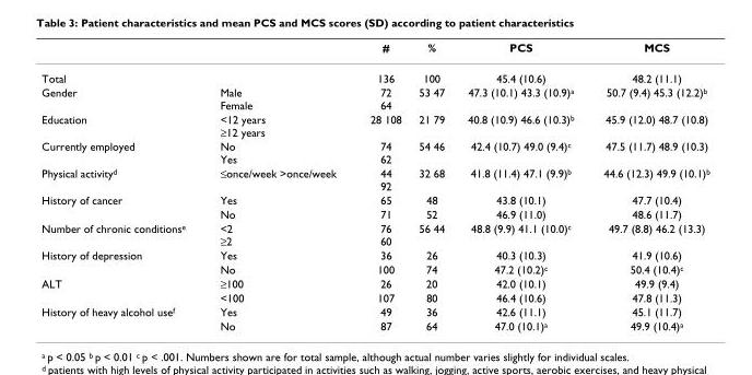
<table><thead><tr><td></td><td></td><td>#</td><td>%</td><td>PCS</td><td>MCS</td></tr></thead><tbody><tr><td>Total</td><td></td><td>136</td><td>100</td><td>45.4 (10.6)</td><td>48.2 (11.1)</td></tr><tr><td>Gender</td><td>Male Female</td><td>72 64</td><td>53 47</td><td>47.3 (10.1) 43.3 (10.9)<sup>a</sup></td><td>50.7 (9.4) 45.3 (12.2)<sup>b</sup></td></tr><tr><td>Education</td><td>&lt;12 years ≥12 years</td><td>28 108</td><td>21 79</td><td>40.8 (10.9) 46.6 (10.3)<sup>b</sup></td><td>45.9 (12.0) 48.7 (10.8)</td></tr><tr><td>Currently employed</td><td>No Yes</td><td>74 62</td><td>54 46</td><td>42.4 (10.7) 49.0 (9.4)<sup>c</sup></td><td>47.5 (11.7) 48.9 (10.3)</td></tr><tr><td>Physical activity<sup>d</sup></td><td>≤once/week &gt;once/week</td><td>44 92</td><td>32 68</td><td>41.8 (11.4) 47.1 (9.9)<sup>b</sup></td><td>44.6 (12.3) 49.9 (10.1)<sup>b</sup></td></tr><tr><td rowspan="2">History of cancer</td><td>Yes</td><td>65</td><td>48</td><td>43.8 (10.1)</td><td>47.7 (10.4)</td></tr><tr><td>No</td><td>71</td><td>52</td><td>46.9 (11.0)</td><td>48.6 (11.7)</td></tr><tr><td>Number of chronic conditions<sup>e</sup></td><td>&lt;2 ≥2</td><td>76 60</td><td>56 44</td><td>48.8 (9.9) 41.1 (10.0)<sup>c</sup></td><td>49.7 (8.8) 46.2 (13.3)</td></tr><tr><td rowspan="2">History of depression</td><td>Yes</td><td>36</td><td>26</td><td>40.3 (10.3)</td><td>41.9 (10.6)</td></tr><tr><td>No</td><td>100</td><td>74</td><td>47.2 (10.2)<sup>c</sup></td><td>50.4 (10.4)<sup>c</sup></td></tr><tr><td rowspan="2">ALT</td><td>≥100</td><td>26</td><td>20</td><td>42.0 (10.1)</td><td>49.9 (9.4)</td></tr><tr><td>&lt;100</td><td>107</td><td>80</td><td>46.4 (10.6)</td><td>47.8 (11.3)</td></tr><tr><td rowspan="2">History of heavy alcohol use<sup>f</sup></td><td>Yes</td><td>49</td><td>36</td><td>42.6 (11.1)</td><td>45.1 (11.7)</td></tr><tr><td>No</td><td>87</td><td>64</td><td>47.0 (10.1)<sup>a</sup></td><td>49.9 (10.4)<sup>a</sup></td></tr></tbody></table>